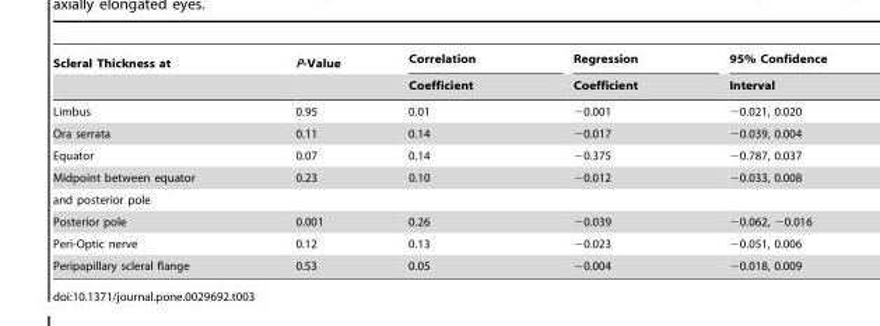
<table><thead><tr><td rowspan="2">Scleral Thickness at</td><td rowspan="2">P-Value</td><td rowspan="2">Correlation Coefficient</td><td rowspan="2">Regression Coefficient</td><td rowspan="2">95% Confidence Interval</td></tr><tr></tr></thead><tbody><tr><td>Limbus</td><td>0.95</td><td>0.01</td><td>−0.001</td><td>−0.021, 0.020</td></tr><tr><td>Ora serrata</td><td>0.11</td><td>0.14</td><td>−0.017</td><td>−0.039, 0.004</td></tr><tr><td>Equator</td><td>0.07</td><td>0.14</td><td>−0.375</td><td>−0.787, 0.037</td></tr><tr><td>Midpoint between equator</td><td>0.23</td><td>0.10</td><td>−0.012</td><td>−0.033, 0.008</td></tr><tr><td colspan="5">and posterior pole</td></tr><tr><td>Posterior pole</td><td>0.001</td><td>0.26</td><td>−0.039</td><td>−0.062, −0.016</td></tr><tr><td>Peri-Optic nerve</td><td>0.12</td><td>0.13</td><td>−0.023</td><td>−0.051, 0.006</td></tr><tr><td>Peripapillary scleral flange</td><td>0.53</td><td>0.05</td><td>−0.004</td><td>−0.018, 0.009</td></tr></tbody></table>